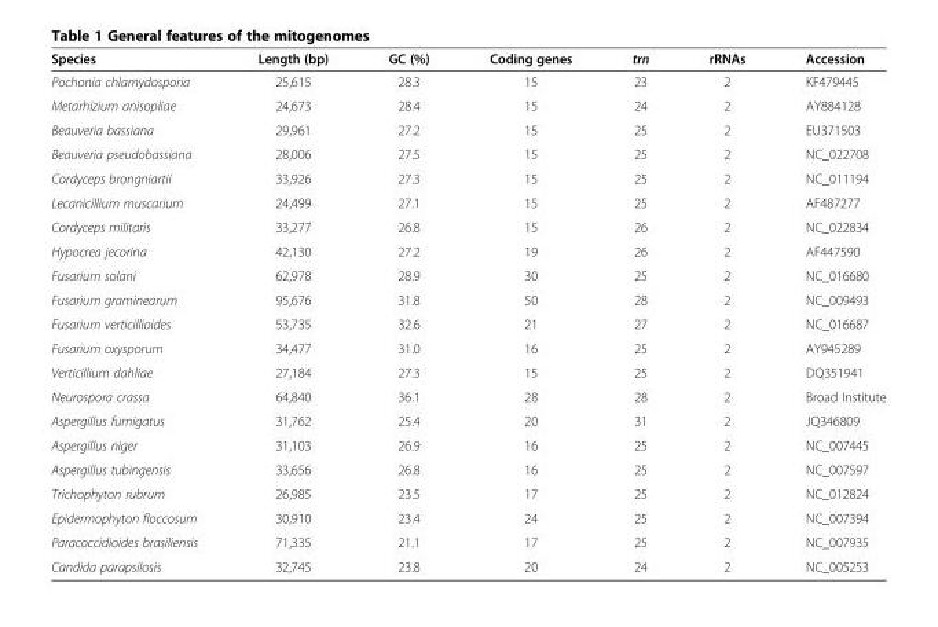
<table><thead><tr><td>Species</td><td>Length (bp)</td><td>GC (%)</td><td>Coding genes</td><td>trn</td><td>rRNAs</td><td>Accession</td></tr></thead><tbody><tr><td>Pochonia chlamydosporia</td><td>25,615</td><td>28.3</td><td>15</td><td>23</td><td>2</td><td>KF479445</td></tr><tr><td>Metarhizium anisopliae</td><td>24,673</td><td>28.4</td><td>15</td><td>24</td><td>2</td><td>AY884128</td></tr><tr><td>Beauveria bassiana</td><td>29,961</td><td>27.2</td><td>15</td><td>25</td><td>2</td><td>EU371503</td></tr><tr><td>Beauveria pseudobassiana</td><td>28,006</td><td>27.5</td><td>15</td><td>25</td><td>2</td><td>NC_022708</td></tr><tr><td>Cordyceps brongniartii</td><td>33,926</td><td>27.3</td><td>15</td><td>25</td><td>2</td><td>NC_011194</td></tr><tr><td>Lecanicillium muscarium</td><td>24,499</td><td>27.1</td><td>15</td><td>25</td><td>2</td><td>AF487277</td></tr><tr><td>Cordyceps militaris</td><td>33,277</td><td>26.8</td><td>15</td><td>26</td><td>2</td><td>NC_022834</td></tr><tr><td>Hypocrea jecorina</td><td>42,130</td><td>27.2</td><td>19</td><td>26</td><td>2</td><td>AF447590</td></tr><tr><td>Fusarium solani</td><td>62,978</td><td>28.9</td><td>30</td><td>25</td><td>2</td><td>NC_016680</td></tr><tr><td>Fusarium graminearum</td><td>95,676</td><td>31.8</td><td>50</td><td>28</td><td>2</td><td>NC_009493</td></tr><tr><td>Fusarium verticillioides</td><td>53,735</td><td>32.6</td><td>21</td><td>27</td><td>2</td><td>NC_016687</td></tr><tr><td>Fusarium oxysporum</td><td>34,477</td><td>31.0</td><td>16</td><td>25</td><td>2</td><td>AY945289</td></tr><tr><td>Verticillium dahliae</td><td>27,184</td><td>27.3</td><td>15</td><td>25</td><td>2</td><td>DQ351941</td></tr><tr><td>Neurospora crassa</td><td>64,840</td><td>36.1</td><td>28</td><td>28</td><td>2</td><td>Broad Institute</td></tr><tr><td>Aspergillus fumigatus</td><td>31,762</td><td>25.4</td><td>20</td><td>31</td><td>2</td><td>JQ346809</td></tr><tr><td>Aspergillus niger</td><td>31,103</td><td>26.9</td><td>16</td><td>25</td><td>2</td><td>NC_007445</td></tr><tr><td>Aspergillus tubingensis</td><td>33,656</td><td>26.8</td><td>16</td><td>25</td><td>2</td><td>NC_007597</td></tr><tr><td>Trichophyton rubrum</td><td>26,985</td><td>23.5</td><td>17</td><td>25</td><td>2</td><td>NC_012824</td></tr><tr><td>Epidermophyton floccosum</td><td>30,910</td><td>23.4</td><td>24</td><td>25</td><td>2</td><td>NC_007394</td></tr><tr><td>Paracoccidioides brasiliensis</td><td>71,335</td><td>21.1</td><td>17</td><td>25</td><td>2</td><td>NC_007935</td></tr><tr><td>Candida parapsilosis</td><td>32,745</td><td>23.8</td><td>20</td><td>24</td><td>2</td><td>NC_005253</td></tr></tbody></table>